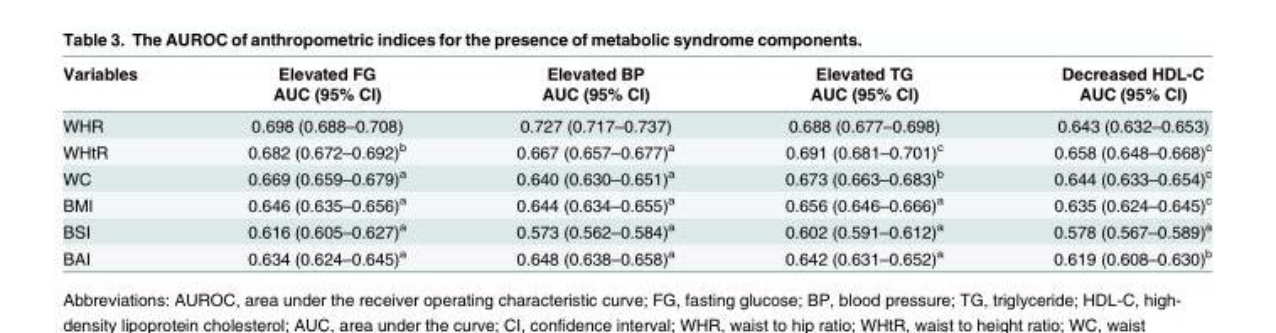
<table><thead><tr><td rowspan="2">Variables</td><td rowspan="2">Elevated FG AUC (95% CI)</td><td rowspan="2">Elevated BP AUC (95% CI)</td><td rowspan="2">Elevated TG AUC (95% CI)</td><td rowspan="2">Decreased HDL-C AUC (95% CI)</td></tr><tr></tr></thead><tbody><tr><td>WHR</td><td>0.698 (0.688–0.708)</td><td>0.727 (0.717–0.737)</td><td>0.688 (0.677–0.698)</td><td>0.643 (0.632–0.653)</td></tr><tr><td>WHtR</td><td>0.682 (0.672–0.692)<sup>b</sup></td><td>0.667 (0.657–0.677)<sup>a</sup></td><td>0.691 (0.681–0.701)<sup>c</sup></td><td>0.658 (0.648–0.668)<sup>c</sup></td></tr><tr><td>WC</td><td>0.669 (0.659–0.679)<sup>a</sup></td><td>0.640 (0.630–0.651)<sup>a</sup></td><td>0.673 (0.663–0.683)<sup>b</sup></td><td>0.644 (0.633–0.654)<sup>c</sup></td></tr><tr><td>BMI</td><td>0.646 (0.635–0.656)<sup>a</sup></td><td>0.644 (0.634–0.655)<sup>a</sup></td><td>0.656 (0.646–0.666)<sup>a</sup></td><td>0.635 (0.624–0.645)<sup>c</sup></td></tr><tr><td>BSI</td><td>0.616 (0.605–0.627)<sup>a</sup></td><td>0.573 (0.562–0.584)<sup>a</sup></td><td>0.602 (0.591–0.612)<sup>a</sup></td><td>0.578 (0.567–0.589)<sup>a</sup></td></tr><tr><td>BAI</td><td>0.634 (0.624–0.645)<sup>a</sup></td><td>0.648 (0.638–0.658)<sup>a</sup></td><td>0.642 (0.631–0.652)<sup>a</sup></td><td>0.619 (0.608–0.630)<sup>b</sup></td></tr></tbody></table>